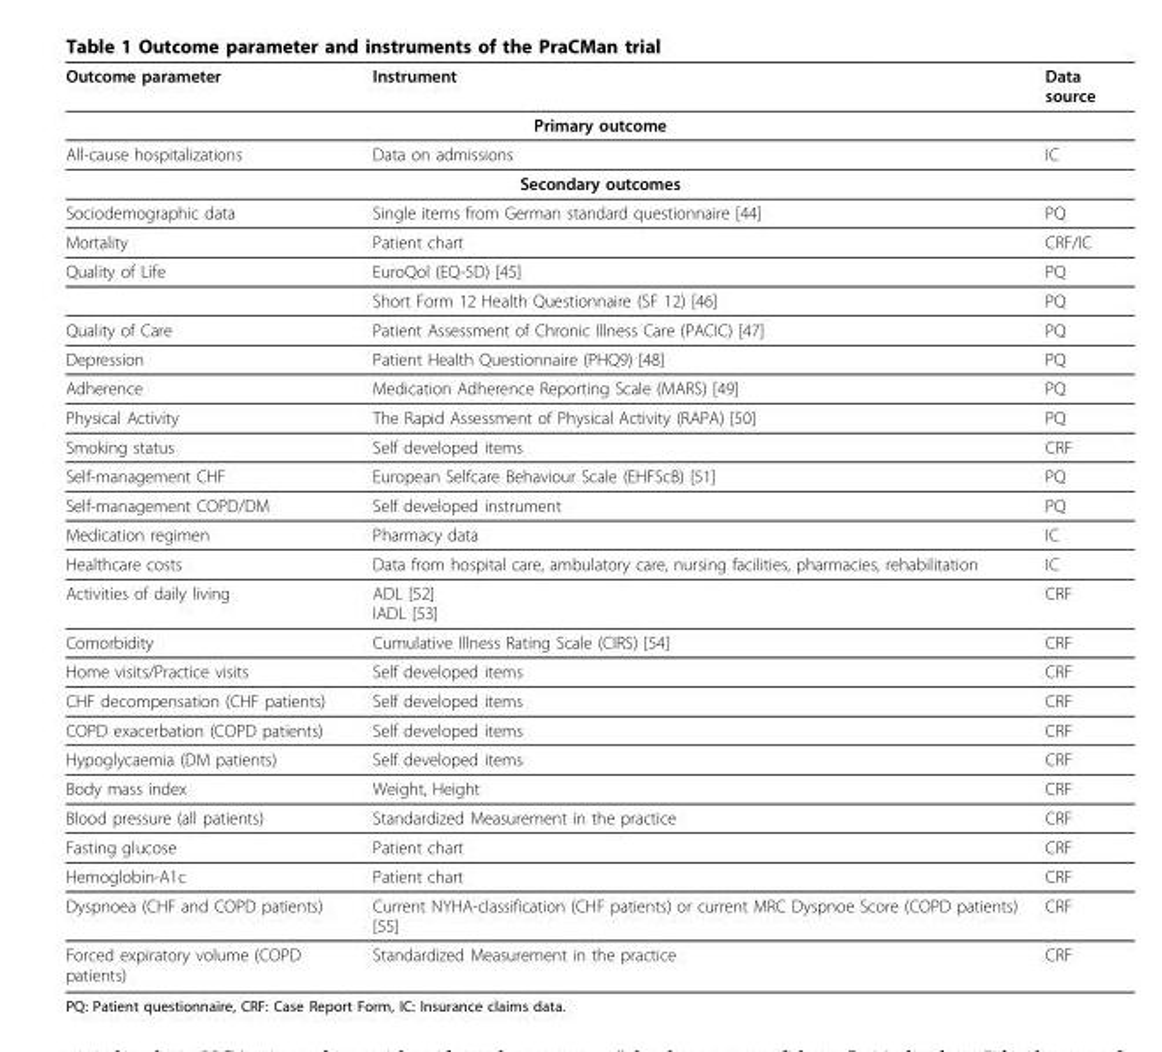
<table><thead><tr><td>Outcome parameter</td><td>Instrument</td><td>Data source</td></tr></thead><tbody><tr><td colspan="3">Primary outcome</td></tr><tr><td>All-cause hospitalizations</td><td>Data on admissions</td><td>IC</td></tr><tr><td colspan="3">Secondary outcomes</td></tr><tr><td>Sociodemographic data</td><td>Single items from German standard questionnaire [44]</td><td>PQ</td></tr><tr><td>Mortality</td><td>Patient chart</td><td>CRF/IC</td></tr><tr><td rowspan="2">Quality of Life</td><td>EuroQol (EQ-5D) [45]</td><td>PQ</td></tr><tr><td>Short Form 12 Health Questionnaire (SF 12) [46]</td><td>PQ</td></tr><tr><td>Quality of Care</td><td>Patient Assessment of Chronic Illness Care (PACIC) [47]</td><td>PQ</td></tr><tr><td>Depression</td><td>Patient Health Questionnaire (PHQ9) [48]</td><td>PQ</td></tr><tr><td>Adherence</td><td>Medication Adherence Reporting Scale (MARS) [49]</td><td>PQ</td></tr><tr><td>Physical Activity</td><td>The Rapid Assessment of Physical Activity (RAPA) [50]</td><td>PQ</td></tr><tr><td>Smoking status</td><td>Self developed items</td><td>CRF</td></tr><tr><td>Self-management CHF</td><td>European Selfcare Behaviour Scale (EHFScB) [51]</td><td>PQ</td></tr><tr><td>Self-management COPD/DM</td><td>Self developed instrument</td><td>PQ</td></tr><tr><td>Medication regimen</td><td>Pharmacy data</td><td>IC</td></tr><tr><td>Healthcare costs</td><td>Data from hospital care, ambulatory care, nursing facilities, pharmacies, rehabilitation</td><td>IC</td></tr><tr><td>Activities of daily living</td><td>ADL [52] IADL [53]</td><td>CRF</td></tr><tr><td>Comorbidity</td><td>Cumulative Illness Rating Scale (CIRS) [54]</td><td>CRF</td></tr><tr><td>Home visits/Practice visits</td><td>Self developed items</td><td>CRF</td></tr><tr><td>CHF decompensation (CHF patients)</td><td>Self developed items</td><td>CRF</td></tr><tr><td>COPD exacerbation (COPD patients)</td><td>Self developed items</td><td>CRF</td></tr><tr><td>Hypoglycaemia (DM patients)</td><td>Self developed items</td><td>CRF</td></tr><tr><td>Body mass index</td><td>Weight, Height</td><td>CRF</td></tr><tr><td>Blood pressure (all patients)</td><td>Standardized Measurement in the practice</td><td>CRF</td></tr><tr><td>Fasting glucose</td><td>Patient chart</td><td>CRF</td></tr><tr><td>Hemoglobin-A1c</td><td>Patient chart</td><td>CRF</td></tr><tr><td>Dyspnoea (CHF and COPD patients)</td><td>Current NYHA-classification (CHF patients) or current MRC Dyspnoe Score (COPD patients) [55]</td><td>CRF</td></tr><tr><td>Forced expiratory volume (COPD patients)</td><td>Standardized Measurement in the practice</td><td>CRF</td></tr></tbody></table>